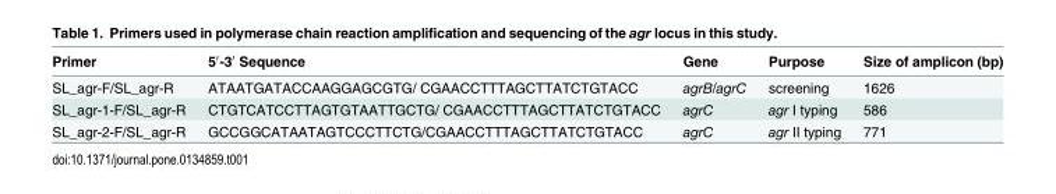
<table><thead><tr><td>Primer</td><td>5′-3′ Sequence</td><td>Gene</td><td>Purpose</td><td>Size of amplicon (bp)</td></tr></thead><tbody><tr><td>SL_agr-F/SL_agr-R</td><td>ATAATGATACCAAGGAGCGTG/ CGAACCTTTAGCTTATCTGTACC</td><td>agrB/agrC</td><td>screening</td><td>1626</td></tr><tr><td>SL_agr-1-F/SL_agr-R</td><td>CTGTCATCCTTAGTGTAATTGCTG/ CGAACCTTTAGCTTATCTGTACC</td><td>agrC</td><td>agr I typing</td><td>586</td></tr><tr><td>SL_agr-2-F/SL_agr-R</td><td>GCCGGCATAATAGTCCCTTCTG/CGAACCTTTAGCTTATCTGTACC</td><td>agrC</td><td>agr II typing</td><td>771</td></tr></tbody></table>